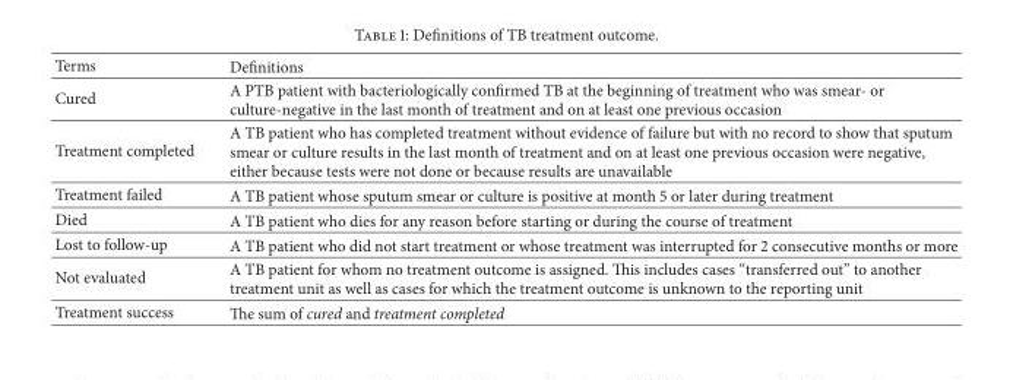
<table><thead><tr><td>Terms</td><td>Definitions</td></tr></thead><tbody><tr><td>Cured</td><td>A PTB patient with bacteriologically confirmed TB at the beginning of treatment who was smear- or culture-negative in the last month of treatment and on at least one previous occasion</td></tr><tr><td>Treatment completed</td><td>A TB patient who has completed treatment without evidence of failure but with no record to show that sputum smear or culture results in the last month of treatment and on at least one previous occasion were negative, either because tests were not done or because results are unavailable</td></tr><tr><td>Treatment failed</td><td>A TB patient whose sputum smear or culture is positive at month 5 or later during treatment</td></tr><tr><td>Died</td><td>A TB patient who dies for any reason before starting or during the course of treatment</td></tr><tr><td>Lost to follow-up</td><td>A TB patient who did not start treatment or whose treatment was interrupted for 2 consecutive months or more</td></tr><tr><td>Not evaluated</td><td>A TB patient for whom no treatment outcome is assigned. This includes cases “transferred out” to another treatment unit as well as cases for which the treatment outcome is unknown to the reporting unit</td></tr><tr><td>Treatment success</td><td>The sum of cured and treatment completed</td></tr></tbody></table>